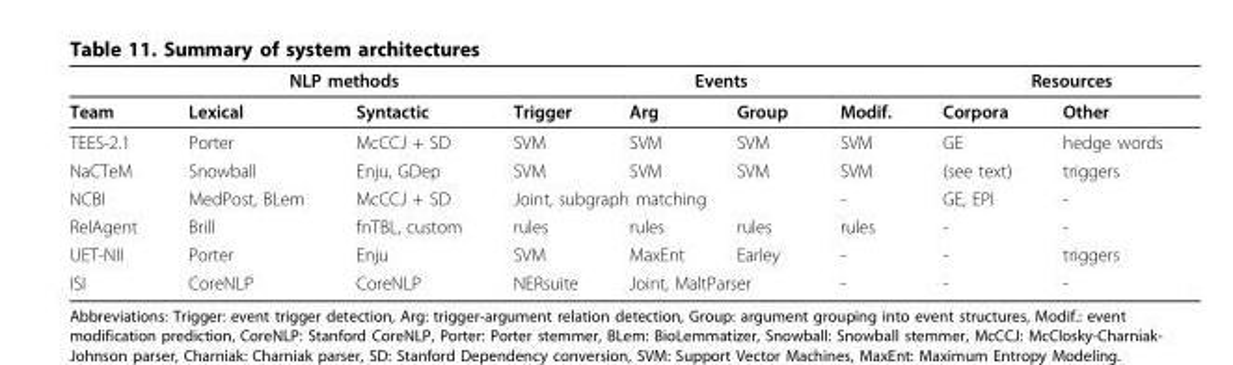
<table><thead><tr><td rowspan="2">Team</td><td colspan="2">NLP methods</td><td colspan="4">Events</td><td colspan="2">Resources</td></tr><tr><td>Lexical</td><td>Syntactic</td><td>Trigger</td><td>Arg</td><td>Group</td><td>Modif.</td><td>Corpora</td><td>Other</td></tr></thead><tbody><tr><td>TEES-2.1</td><td>Porter</td><td>McCCJ + SD</td><td>SVM</td><td>SVM</td><td>SVM</td><td>SVM</td><td>GE</td><td>hedge words</td></tr><tr><td>NaCTeM</td><td>Snowball</td><td>Enju, GDep</td><td>SVM</td><td>SVM</td><td>SVM</td><td>SVM</td><td>(see text)</td><td>triggers</td></tr><tr><td>NCBI</td><td>MedPost, BLem</td><td>McCCJ + SD</td><td colspan="3">Joint, subgraph matching</td><td>-</td><td>GE, EPI</td><td>-</td></tr><tr><td>RelAgent</td><td>Brill</td><td>fnTBL, custom</td><td>rules</td><td>rules</td><td>rules</td><td>rules</td><td>-</td><td>-</td></tr><tr><td>UET-NII</td><td>Porter</td><td>Enju</td><td>SVM</td><td>MaxEnt</td><td>Earley</td><td>-</td><td>-</td><td>triggers</td></tr><tr><td>ISI</td><td>CoreNLP</td><td>CoreNLP</td><td>NERsuite</td><td colspan="2">Joint, MaltParser</td><td>-</td><td>-</td><td>-</td></tr></tbody></table>